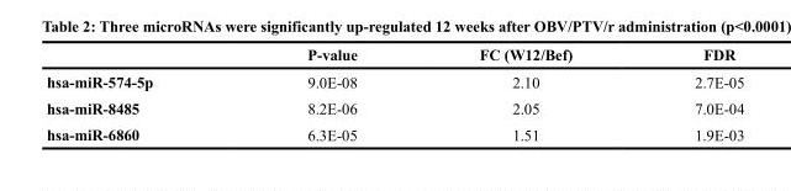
<table><thead><tr><td></td><td>P-value</td><td>FC (W12/Bef)</td><td>FDR</td></tr></thead><tbody><tr><td>hsa-miR-574-5p</td><td>9.0E-08</td><td>2.10</td><td>2.7E-05</td></tr><tr><td>hsa-miR-8485</td><td>8.2E-06</td><td>2.05</td><td>7.0E-04</td></tr><tr><td>hsa-miR-6860</td><td>6.3E-05</td><td>1.51</td><td>1.9E-03</td></tr></tbody></table>